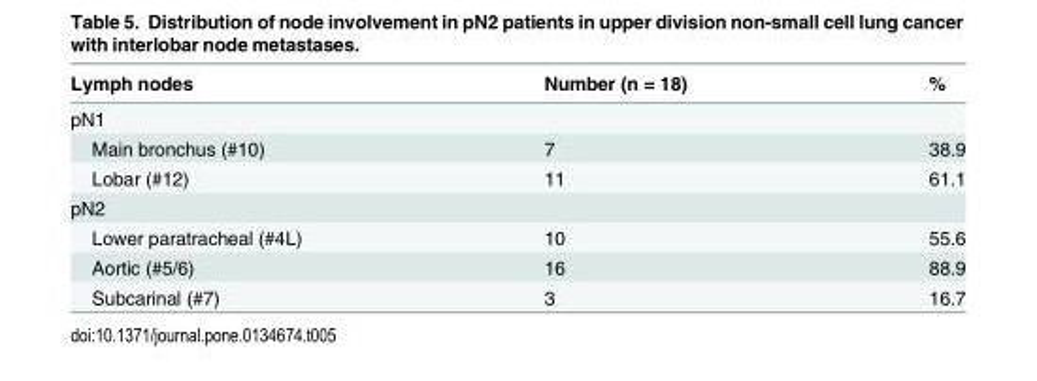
<table><thead><tr><td>Lymph nodes</td><td>Number (n = 18)</td><td>%</td></tr></thead><tbody><tr><td colspan="3">pN1</td></tr><tr><td>Main bronchus (#10)</td><td>7</td><td>38.9</td></tr><tr><td>Lobar (#12)</td><td>11</td><td>61.1</td></tr><tr><td colspan="3">pN2</td></tr><tr><td>Lower paratracheal (#4L)</td><td>10</td><td>55.6</td></tr><tr><td>Aortic (#5/6)</td><td>16</td><td>88.9</td></tr><tr><td>Subcarinal (#7)</td><td>3</td><td>16.7</td></tr></tbody></table>